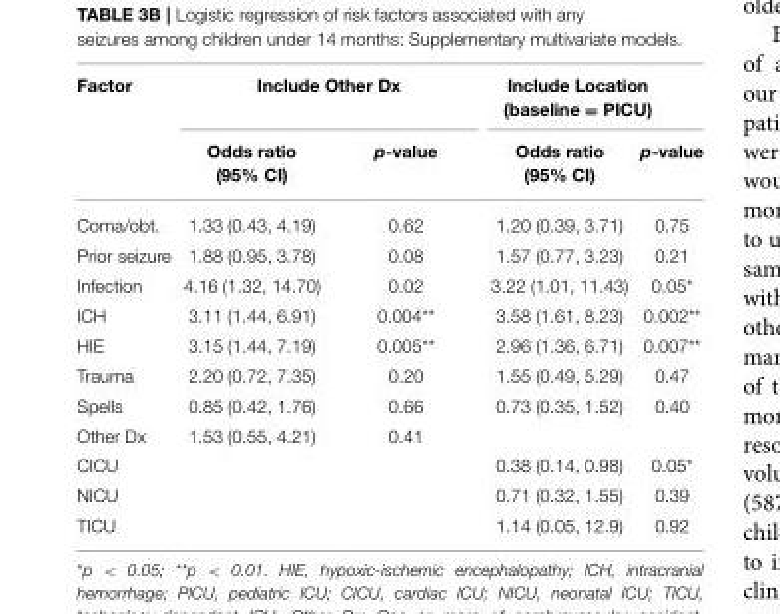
<table><thead><tr><td rowspan="2">Factor</td><td colspan="2">Include Other Dx</td><td colspan="2">Include Location (baseline = PICU)</td></tr><tr><td>Odds ratio (95% CI)</td><td>p-value</td><td>Odds ratio (95% CI)</td><td>p-value</td></tr></thead><tbody><tr><td>Coma/obt.</td><td>1.33 (0.43, 4.19)</td><td>0.62</td><td>1.20 (0.39, 3.71)</td><td>0.75</td></tr><tr><td>Prior seizure</td><td>1.88 (0.95, 3.78)</td><td>0.08</td><td>1.57 (0.77, 3.23)</td><td>0.21</td></tr><tr><td>Infection</td><td>4.16 (1.32, 14.70)</td><td>0.02</td><td>3.22 (1.01, 11.43)</td><td>0.05*</td></tr><tr><td>ICH</td><td>3.11 (1.44, 6.91)</td><td>0.004**</td><td>3.58 (1.61, 8.23)</td><td>0.002**</td></tr><tr><td>HIE</td><td>3.15 (1.44, 7.19)</td><td>0.005**</td><td>2.96 (1.36, 6.71)</td><td>0.007**</td></tr><tr><td>Trauma</td><td>2.20 (0.72, 7.35)</td><td>0.20</td><td>1.55 (0.49, 5.29)</td><td>0.47</td></tr><tr><td>Spells</td><td>0.85 (0.42, 1.76)</td><td>0.66</td><td>0.73 (0.35, 1.52)</td><td>0.40</td></tr><tr><td>Other Dx</td><td>1.53 (0.55, 4.21)</td><td>0.41</td><td></td><td></td></tr><tr><td>CICU</td><td></td><td></td><td>0.38 (0.14, 0.98)</td><td>0.05*</td></tr><tr><td>NICU</td><td></td><td></td><td>0.71 (0.32, 1.55)</td><td>0.39</td></tr><tr><td>TICU</td><td></td><td></td><td>1.14 (0.05, 12.9)</td><td>0.92</td></tr></tbody></table>